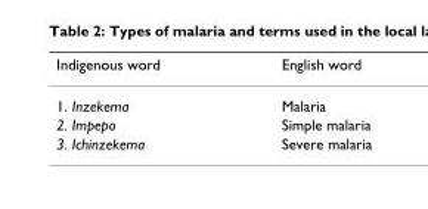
<table><thead><tr><td>Indigenous word</td><td>English word</td></tr></thead><tbody><tr><td>1. Inzekema</td><td>Malaria</td></tr><tr><td>2. Impepo</td><td>Simple malaria</td></tr><tr><td>3. Ichinzekema</td><td>Severe malaria</td></tr></tbody></table>